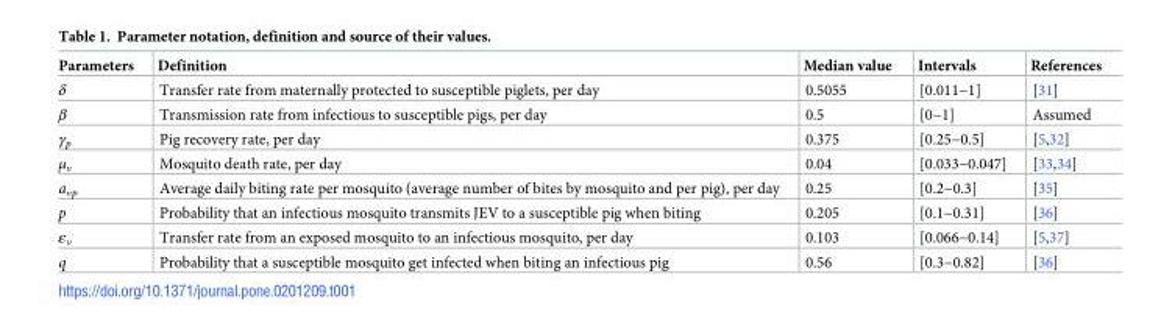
<table><thead><tr><td>Parameters</td><td>Definition</td><td>Median value</td><td>Intervals</td><td>References</td></tr></thead><tbody><tr><td>δ</td><td>Transfer rate from maternally protected to susceptible piglets, per day</td><td>0.5055</td><td>[0.011−1]</td><td>[31]</td></tr><tr><td>β</td><td>Transmission rate from infectious to susceptible pigs, per day</td><td>0.5</td><td>[0−1]</td><td>Assumed</td></tr><tr><td>γ<sub>p</sub></td><td>Pig recovery rate, per day</td><td>0.375</td><td>[0.25−0.5]</td><td>[5,32]</td></tr><tr><td>μ<sub>v</sub></td><td>Mosquito death rate, per day</td><td>0.04</td><td>[0.033−0.047]</td><td>[33,34]</td></tr><tr><td>a<sub>vp</sub></td><td>Average daily biting rate per mosquito (average number of bites by mosquito and per pig), per day</td><td>0.25</td><td>[0.2−0.3]</td><td>[35]</td></tr><tr><td>p</td><td>Probability that an infectious mosquito transmits JEV to a susceptible pig when biting</td><td>0.205</td><td>[0.1−0.31]</td><td>[36]</td></tr><tr><td>ε<sub>v</sub></td><td>Transfer rate from an exposed mosquito to an infectious mosquito, per day</td><td>0.103</td><td>[0.066−0.14]</td><td>[5,37]</td></tr><tr><td>q</td><td>Probability that a susceptible mosquito get infected when biting an infectious pig</td><td>0.56</td><td>[0.3−0.82]</td><td>[36]</td></tr></tbody></table>